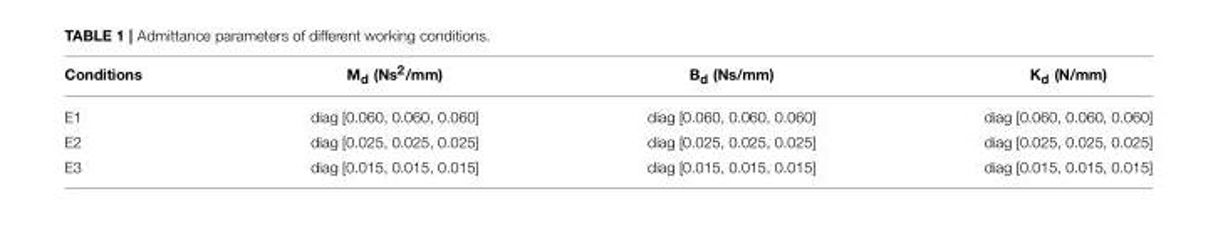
<table><thead><tr><td>Conditions</td><td>M<sub>d</sub> (Ns<sup>2</sup>/mm)</td><td>B<sub>d</sub> (Ns/mm)</td><td>K<sub>d</sub> (N/mm)</td></tr></thead><tbody><tr><td>E1</td><td>diag [0.060, 0.060, 0.060]</td><td>diag [0.060, 0.060, 0.060]</td><td>diag [0.060, 0.060, 0.060]</td></tr><tr><td>E2</td><td>diag [0.025, 0.025, 0.025]</td><td>diag [0.025, 0.025, 0.025]</td><td>diag [0.025, 0.025, 0.025]</td></tr><tr><td>E3</td><td>diag [0.015, 0.015, 0.015]</td><td>diag [0.015, 0.015, 0.015]</td><td>diag [0.015, 0.015, 0.015]</td></tr></tbody></table>